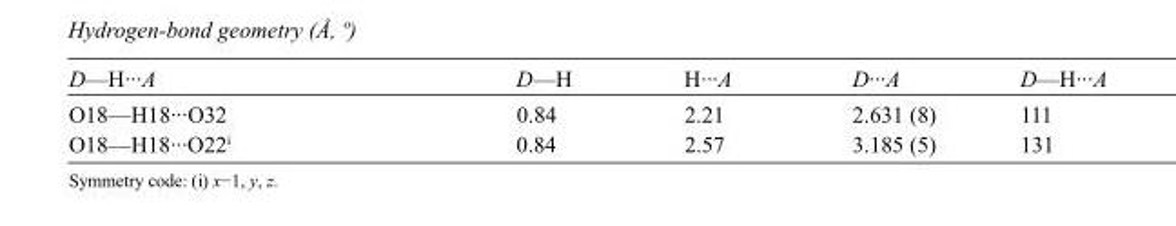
<table><tbody><tr><td>D—H···A</td><td>D—H</td><td>H···A</td><td>D···A</td><td>D—H···A</td></tr><tr><td>O18—H18···O32</td><td>0.84</td><td>2.21</td><td>2.631 (8)</td><td>111</td></tr><tr><td>O18—H18···O22<sup>i</sup></td><td>0.84</td><td>2.57</td><td>3.185 (5)</td><td>131</td></tr></tbody></table>